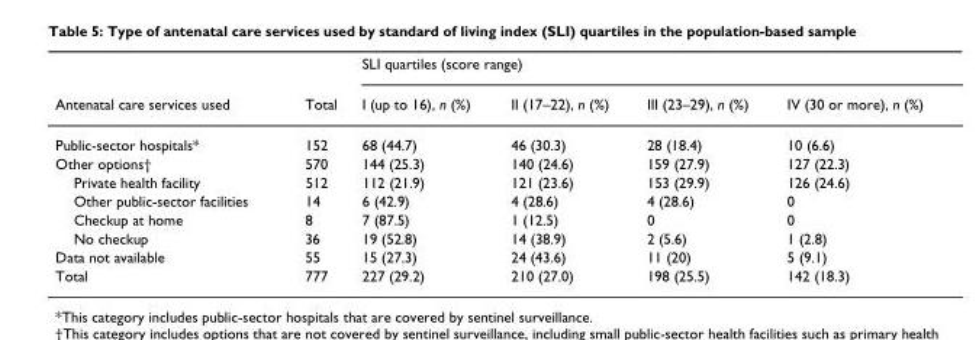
<table><thead><tr><td rowspan="2">Antenatal care services used</td><td rowspan="2">Total</td><td colspan="4">SLI quartiles (score range)</td></tr><tr><td>I (up to 16), n (%)</td><td>II (17–22), n (%)</td><td>III (23–29), n (%)</td><td>IV (30 or more), n (%)</td></tr></thead><tbody><tr><td>Public-sector hospitals*</td><td>152</td><td>68 (44.7)</td><td>46 (30.3)</td><td>28 (18.4)</td><td>10 (6.6)</td></tr><tr><td>Other options†</td><td>570</td><td>144 (25.3)</td><td>140 (24.6)</td><td>159 (27.9)</td><td>127 (22.3)</td></tr><tr><td>Private health facility</td><td>512</td><td>112 (21.9)</td><td>121 (23.6)</td><td>153 (29.9)</td><td>126 (24.6)</td></tr><tr><td>Other public-sector facilities</td><td>14</td><td>6 (42.9)</td><td>4 (28.6)</td><td>4 (28.6)</td><td>0</td></tr><tr><td>Checkup at home</td><td>8</td><td>7 (87.5)</td><td>1 (12.5)</td><td>0</td><td>0</td></tr><tr><td>No checkup</td><td>36</td><td>19 (52.8)</td><td>14 (38.9)</td><td>2 (5.6)</td><td>1 (2.8)</td></tr><tr><td>Data not available</td><td>55</td><td>15 (27.3)</td><td>24 (43.6)</td><td>11 (20)</td><td>5 (9.1)</td></tr><tr><td>Total</td><td>777</td><td>227 (29.2)</td><td>210 (27.0)</td><td>198 (25.5)</td><td>142 (18.3)</td></tr></tbody></table>